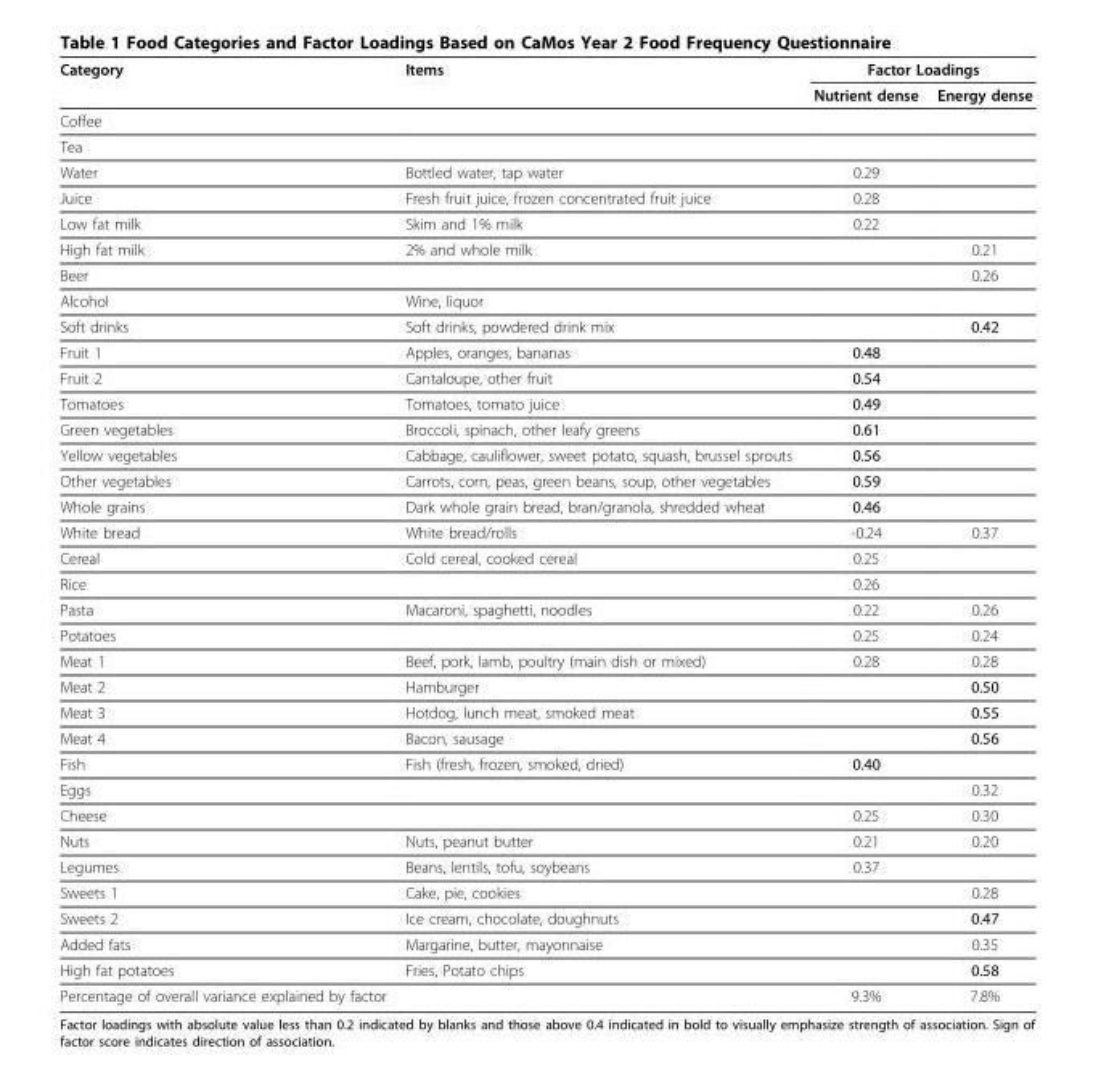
<table><thead><tr><td rowspan="2">Category</td><td rowspan="2">Items</td><td colspan="2">Factor Loadings</td></tr><tr><td>Nutrient dense</td><td>Energy dense</td></tr></thead><tbody><tr><td colspan="4">Coffee</td></tr><tr><td colspan="4">Tea</td></tr><tr><td>Water</td><td>Bottled water, tap water</td><td>0.29</td><td></td></tr><tr><td>Juice</td><td>Fresh fruit juice, frozen concentrated fruit juice</td><td>0.28</td><td></td></tr><tr><td>Low fat milk</td><td>Skim and 1% milk</td><td>0.22</td><td></td></tr><tr><td>High fat milk</td><td>2% and whole milk</td><td></td><td>0.21</td></tr><tr><td>Beer</td><td></td><td></td><td>0.26</td></tr><tr><td>Alcohol</td><td>Wine, liquor</td><td></td><td></td></tr><tr><td>Soft drinks</td><td>Soft drinks, powdered drink mix</td><td></td><td>0.42</td></tr><tr><td>Fruit 1</td><td>Apples, oranges, bananas</td><td>0.48</td><td></td></tr><tr><td>Fruit 2</td><td>Cantaloupe, other fruit</td><td>0.54</td><td></td></tr><tr><td>Tomatoes</td><td>Tomatoes, tomato juice</td><td>0.49</td><td></td></tr><tr><td>Green vegetables</td><td>Broccoli, spinach, other leafy greens</td><td>0.61</td><td></td></tr><tr><td>Yellow vegetables</td><td>Cabbage, cauliflower, sweet potato, squash, brussel sprouts</td><td>0.56</td><td></td></tr><tr><td>Other vegetables</td><td>Carrots, corn, peas, green beans, soup, other vegetables</td><td>0.59</td><td></td></tr><tr><td>Whole grains</td><td>Dark whole grain bread, bran/granola, shredded wheat</td><td>0.46</td><td></td></tr><tr><td>White bread</td><td>White bread/rolls</td><td>-0.24</td><td>0.37</td></tr><tr><td>Cereal</td><td>Cold cereal, cooked cereal</td><td>0.25</td><td></td></tr><tr><td>Rice</td><td></td><td>0.26</td><td></td></tr><tr><td>Pasta</td><td>Macaroni, spaghetti, noodles</td><td>0.22</td><td>0.26</td></tr><tr><td>Potatoes</td><td></td><td>0.25</td><td>0.24</td></tr><tr><td>Meat 1</td><td>Beef, pork, lamb, poultry (main dish or mixed)</td><td>0.28</td><td>0.28</td></tr><tr><td>Meat 2</td><td>Hamburger</td><td></td><td>0.50</td></tr><tr><td>Meat 3</td><td>Hotdog, lunch meat, smoked meat</td><td></td><td>0.55</td></tr><tr><td>Meat 4</td><td>Bacon, sausage</td><td></td><td>0.56</td></tr><tr><td>Fish</td><td>Fish (fresh, frozen, smoked, dried)</td><td>0.40</td><td></td></tr><tr><td>Eggs</td><td></td><td></td><td>0.32</td></tr><tr><td>Cheese</td><td></td><td>0.25</td><td>0.30</td></tr><tr><td>Nuts</td><td>Nuts, peanut butter</td><td>0.21</td><td>0.20</td></tr><tr><td>Legumes</td><td>Beans, lentils, tofu, soybeans</td><td>0.37</td><td></td></tr><tr><td>Sweets 1</td><td>Cake, pie, cookies</td><td></td><td>0.28</td></tr><tr><td>Sweets 2</td><td>Ice cream, chocolate, doughnuts</td><td></td><td>0.47</td></tr><tr><td>Added fats</td><td>Margarine, butter, mayonnaise</td><td></td><td>0.35</td></tr><tr><td>High fat potatoes</td><td>Fries, Potato chips</td><td></td><td>0.58</td></tr><tr><td>Percentage of overall variance explained by factor</td><td></td><td>9.3%</td><td>7.8%</td></tr></tbody></table>